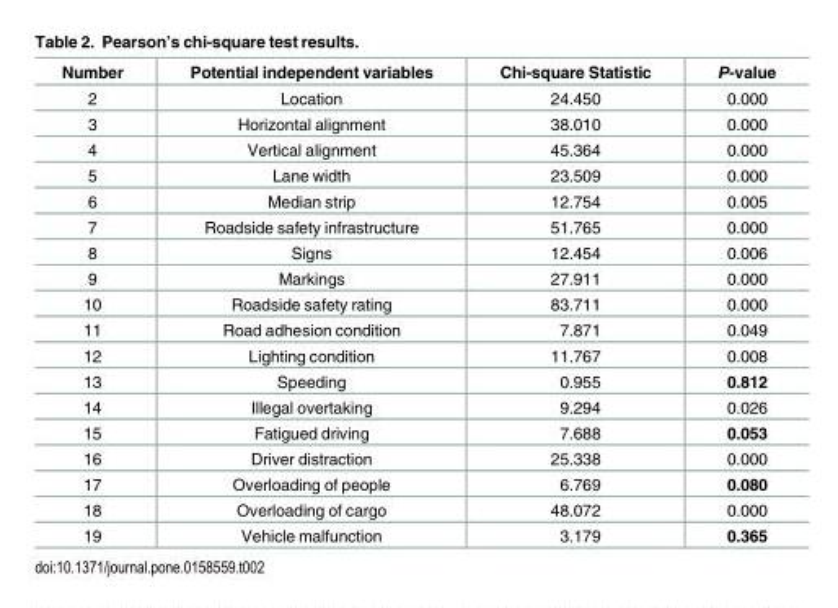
<table><thead><tr><td>Number</td><td>Potential independent variables</td><td>Chi-square Statistic</td><td>P-value</td></tr></thead><tbody><tr><td>2</td><td>Location</td><td>24.450</td><td>0.000</td></tr><tr><td>3</td><td>Horizontal alignment</td><td>38.010</td><td>0.000</td></tr><tr><td>4</td><td>Vertical alignment</td><td>45.364</td><td>0.000</td></tr><tr><td>5</td><td>Lane width</td><td>23.509</td><td>0.000</td></tr><tr><td>6</td><td>Median strip</td><td>12.754</td><td>0.005</td></tr><tr><td>7</td><td>Roadside safety infrastructure</td><td>51.765</td><td>0.000</td></tr><tr><td>8</td><td>Signs</td><td>12.454</td><td>0.006</td></tr><tr><td>9</td><td>Markings</td><td>27.911</td><td>0.000</td></tr><tr><td>10</td><td>Roadside safety rating</td><td>83.711</td><td>0.000</td></tr><tr><td>11</td><td>Road adhesion condition</td><td>7.871</td><td>0.049</td></tr><tr><td>12</td><td>Lighting condition</td><td>11.767</td><td>0.008</td></tr><tr><td>13</td><td>Speeding</td><td>0.955</td><td>0.812</td></tr><tr><td>14</td><td>Illegal overtaking</td><td>9.294</td><td>0.026</td></tr><tr><td>15</td><td>Fatigued driving</td><td>7.688</td><td>0.053</td></tr><tr><td>16</td><td>Driver distraction</td><td>25.338</td><td>0.000</td></tr><tr><td>17</td><td>Overloading of people</td><td>6.769</td><td>0.080</td></tr><tr><td>18</td><td>Overloading of cargo</td><td>48.072</td><td>0.000</td></tr><tr><td>19</td><td>Vehicle malfunction</td><td>3.179</td><td>0.365</td></tr></tbody></table>